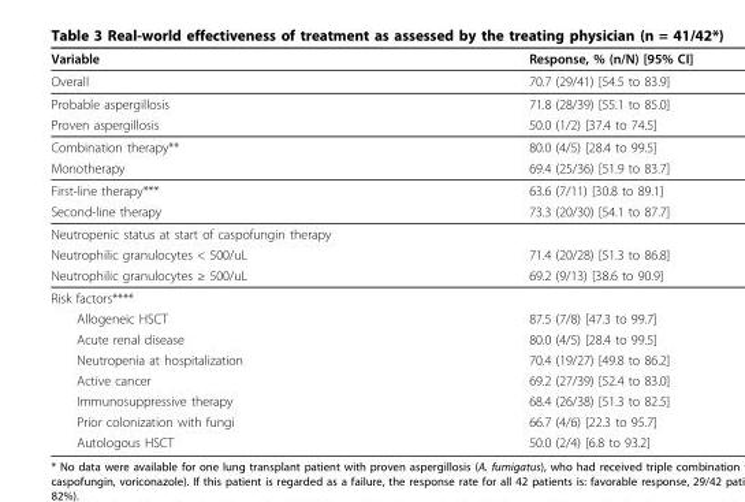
<table><thead><tr><td>Variable</td><td>Response, % (n/N) [95% CI]</td></tr></thead><tbody><tr><td>Overall</td><td>70.7 (29/41) [54.5 to 83.9]</td></tr><tr><td>Probable aspergillosis</td><td>71.8 (28/39) [55.1 to 85.0]</td></tr><tr><td>Proven aspergillosis</td><td>50.0 (1/2) [37.4 to 74.5]</td></tr><tr><td>Combination therapy**</td><td>80.0 (4/5) [28.4 to 99.5]</td></tr><tr><td>Monotherapy</td><td>69.4 (25/36) [51.9 to 83.7]</td></tr><tr><td>First-line therapy***</td><td>63.6 (7/11) [30.8 to 89.1]</td></tr><tr><td>Second-line therapy</td><td>73.3 (20/30) [54.1 to 87.7]</td></tr><tr><td colspan="2">Neutropenic status at start of caspofungin therapy</td></tr><tr><td>Neutrophilic granulocytes &lt; 500/uL</td><td>71.4 (20/28) [51.3 to 86.8]</td></tr><tr><td>Neutrophilic granulocytes ≥ 500/uL</td><td>69.2 (9/13) [38.6 to 90.9]</td></tr><tr><td colspan="2">Risk factors****</td></tr><tr><td>Allogeneic HSCT</td><td>87.5 (7/8) [47.3 to 99.7]</td></tr><tr><td>Acute renal disease</td><td>80.0 (4/5) [28.4 to 99.5]</td></tr><tr><td>Neutropenia at hospitalization</td><td>70.4 (19/27) [49.8 to 86.2]</td></tr><tr><td>Active cancer</td><td>69.2 (27/39) [52.4 to 83.0]</td></tr><tr><td>Immunosuppressive therapy</td><td>68.4 (26/38) [51.3 to 82.5]</td></tr><tr><td>Prior colonization with fungi</td><td>66.7 (4/6) [22.3 to 95.7]</td></tr><tr><td>Autologous HSCT</td><td>50.0 (2/4) [6.8 to 93.2]</td></tr></tbody></table>